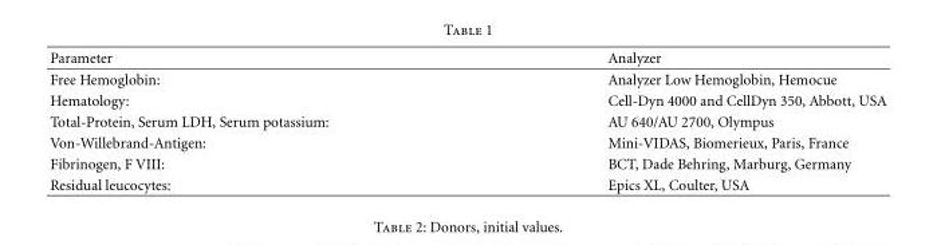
<table><thead><tr><td>Parameter</td><td>Analyzer</td></tr></thead><tbody><tr><td>Free Hemoglobin:</td><td>Analyzer Low Hemoglobin, Hemocue</td></tr><tr><td>Hematology:</td><td>Cell-Dyn 4000 and CellDyn 350, Abbott, USA</td></tr><tr><td>Total-Protein, Serum LDH, Serum potassium:</td><td>AU 640/AU 2700, Olympus</td></tr><tr><td>Von-Willebrand-Antigen:</td><td>Mini-VIDAS, Biomerieux, Paris, France</td></tr><tr><td>Fibrinogen, F VIII:</td><td>BCT, Dade Behring, Marburg, Germany</td></tr><tr><td>Residual leucocytes:</td><td>Epics XL, Coulter, USA</td></tr></tbody></table>